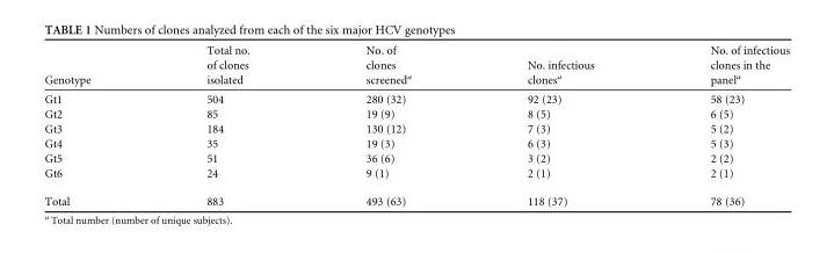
<table><thead><tr><td>Genotype</td><td>Total no. of clones isolated</td><td>No. of clones screened<sup>a</sup></td><td>No. infectious clones<sup>a</sup></td><td>No. of infectious clones in the panel<sup>a</sup></td></tr></thead><tbody><tr><td>Gt1</td><td>504</td><td>280 (32)</td><td>92 (23)</td><td>58 (23)</td></tr><tr><td>Gt2</td><td>85</td><td>19 (9)</td><td>8 (5)</td><td>6 (5)</td></tr><tr><td>Gt3</td><td>184</td><td>130 (12)</td><td>7 (3)</td><td>5 (2)</td></tr><tr><td>Gt4</td><td>35</td><td>19 (3)</td><td>6 (3)</td><td>5 (3)</td></tr><tr><td>Gt5</td><td>51</td><td>36 (6)</td><td>3 (2)</td><td>2 (2)</td></tr><tr><td>Gt6</td><td>24</td><td>9 (1)</td><td>2 (1)</td><td>2 (1)</td></tr><tr><td>Total</td><td>883</td><td>493 (63)</td><td>118 (37)</td><td>78 (36)</td></tr></tbody></table>